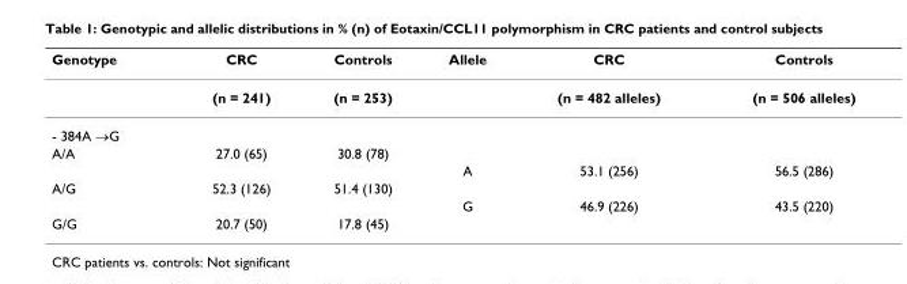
<table><thead><tr><td>Genotype</td><td>CRC</td><td>Controls</td><td>Allele</td><td>CRC</td><td>Controls</td></tr></thead><tbody><tr><td></td><td>(n = 241)</td><td>(n = 253)</td><td></td><td>(n = 482 alleles)</td><td>(n = 506 alleles)</td></tr><tr><td colspan="6">- 384A →G</td></tr><tr><td rowspan="2">A/A</td><td>27.0 (65)</td><td>30.8 (78)</td><td></td><td></td><td></td></tr><tr><td></td><td></td><td>A</td><td>53.1 (256)</td><td>56.5 (286)</td></tr><tr><td rowspan="2">A/G</td><td>52.3 (126)</td><td>51.4 (130)</td><td></td><td></td><td></td></tr><tr><td></td><td></td><td>G</td><td>46.9 (226)</td><td>43.5 (220)</td></tr><tr><td>G/G</td><td>20.7 (50)</td><td>17.8 (45)</td><td></td><td></td><td></td></tr></tbody></table>